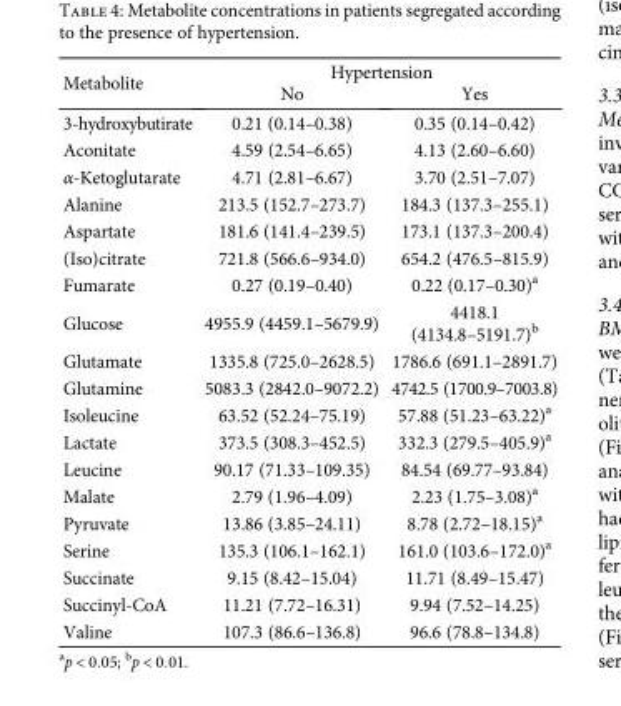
<table><thead><tr><td rowspan="2">Metabolite</td><td colspan="2">Hypertension</td></tr><tr><td>No</td><td>Yes</td></tr></thead><tbody><tr><td>3-hydroxybutirate</td><td>0.21 (0.14–0.38)</td><td>0.35 (0.14–0.42)</td></tr><tr><td>Aconitate</td><td>4.59 (2.54–6.65)</td><td>4.13 (2.60–6.60)</td></tr><tr><td>α-Ketoglutarate</td><td>4.71 (2.81–6.67)</td><td>3.70 (2.51–7.07)</td></tr><tr><td>Alanine</td><td>213.5 (152.7–273.7)</td><td>184.3 (137.3–255.1)</td></tr><tr><td>Aspartate</td><td>181.6 (141.4–239.5)</td><td>173.1 (137.3–200.4)</td></tr><tr><td>(Iso)citrate</td><td>721.8 (566.6–934.0)</td><td>654.2 (476.5–815.9)</td></tr><tr><td>Fumarate</td><td>0.27 (0.19–0.40)</td><td>0.22 (0.17–0.30)<sup>a</sup></td></tr><tr><td>Glucose</td><td>4955.9 (4459.1–5679.9)</td><td>4418.1 (4134.8–5191.7)<sup>b</sup></td></tr><tr><td>Glutamate</td><td>1335.8 (725.0–2628.5)</td><td>1786.6 (691.1–2891.7)</td></tr><tr><td>Glutamine</td><td>5083.3 (2842.0–9072.2)</td><td>4742.5 (1700.9–7003.8)</td></tr><tr><td>Isoleucine</td><td>63.52 (52.24–75.19)</td><td>57.88 (51.23–63.22)<sup>a</sup></td></tr><tr><td>Lactate</td><td>373.5 (308.3–452.5)</td><td>332.3 (279.5–405.9)<sup>a</sup></td></tr><tr><td>Leucine</td><td>90.17 (71.33–109.35)</td><td>84.54 (69.77–93.84)</td></tr><tr><td>Malate</td><td>2.79 (1.96–4.09)</td><td>2.23 (1.75–3.08)<sup>a</sup></td></tr><tr><td>Pyruvate</td><td>13.86 (3.85–24.11)</td><td>8.78 (2.72–18.15)<sup>a</sup></td></tr><tr><td>Serine</td><td>135.3 (106.1–162.1)</td><td>161.0 (103.6–172.0)<sup>a</sup></td></tr><tr><td>Succinate</td><td>9.15 (8.42–15.04)</td><td>11.71 (8.49–15.47)</td></tr><tr><td>Succinyl-CoA</td><td>11.21 (7.72–16.31)</td><td>9.94 (7.52–14.25)</td></tr><tr><td>Valine</td><td>107.3 (86.6–136.8)</td><td>96.6 (78.8–134.8)</td></tr></tbody></table>